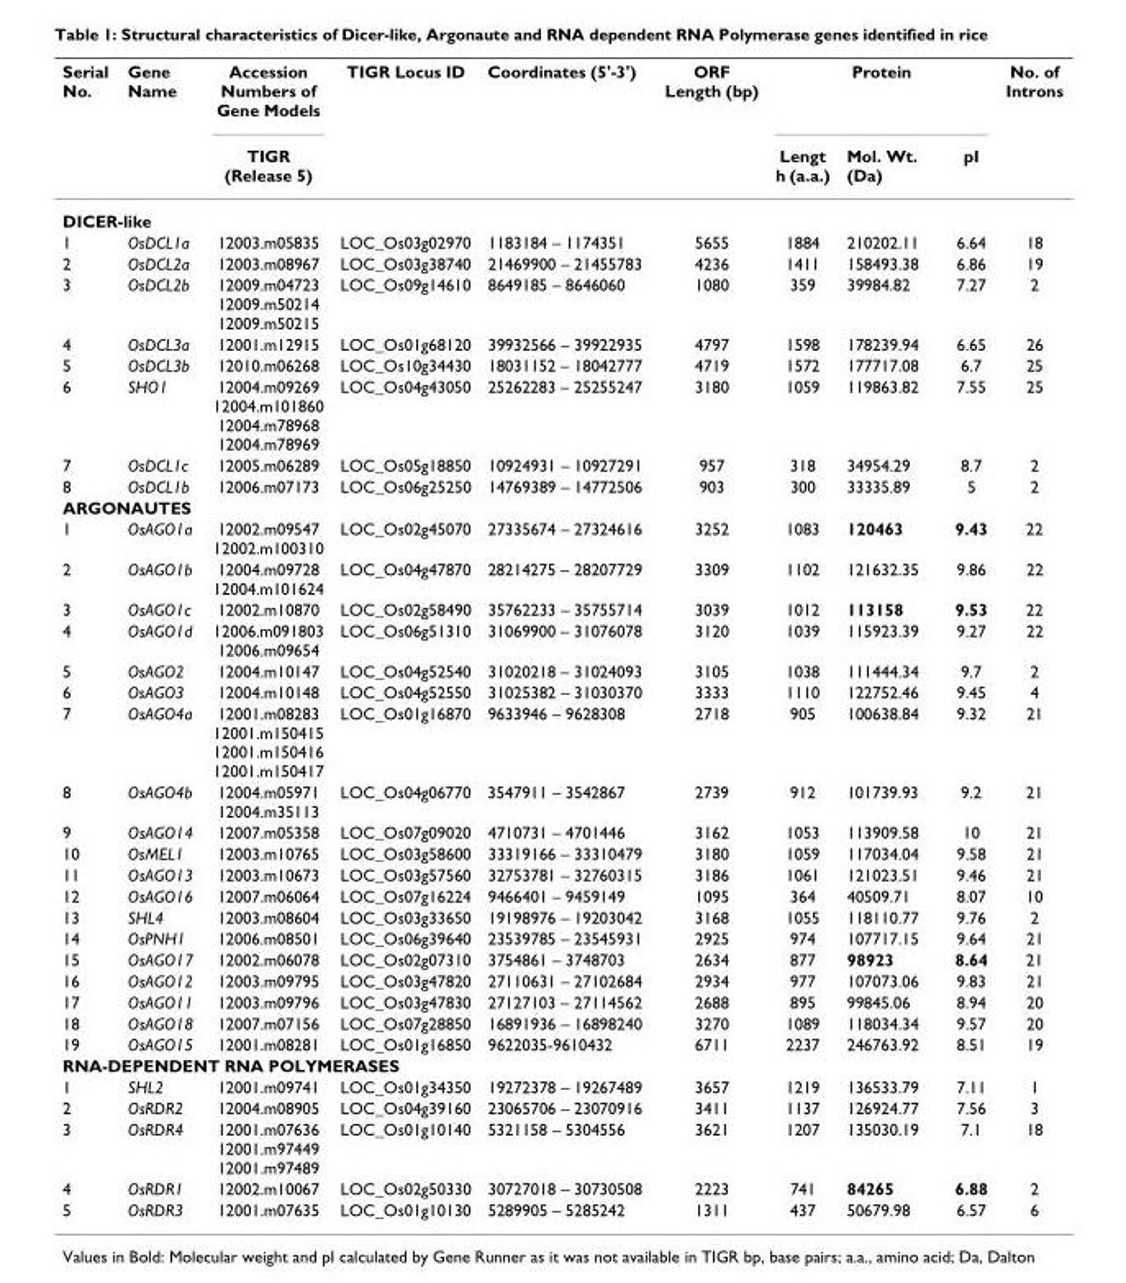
<table><thead><tr><td rowspan="2">Serial No.</td><td rowspan="2">Gene Name</td><td rowspan="2">Accession Numbers of Gene Models TIGR (Release 5)</td><td rowspan="2">TIGR Locus ID</td><td rowspan="2">Coordinates (5&#x27;-3&#x27;)</td><td rowspan="2">ORF Length (bp)</td><td colspan="3">Protein</td><td rowspan="2">No. of Introns</td></tr><tr><td>Lengt h (a.a.)</td><td>Mol. Wt. (Da)</td><td>pI</td></tr></thead><tbody><tr><td colspan="10">DICER-like</td></tr><tr><td>1</td><td>OsDCL1a</td><td>12003.m05835</td><td>LOC_Os03g02970</td><td>1183184 – 1174351</td><td>5655</td><td>1884</td><td>210202.11</td><td>6.64</td><td>18</td></tr><tr><td>2</td><td>OsDCL2a</td><td>12003.m08967</td><td>LOC_Os03g38740</td><td>21469900 – 21455783</td><td>4236</td><td>1411</td><td>158493.38</td><td>6.86</td><td>19</td></tr><tr><td>3</td><td>OsDCL2b</td><td>12009.m04723 12009.m50214 12009.m50215</td><td>LOC_Os09g14610</td><td>8649185 – 8646060</td><td>1080</td><td>359</td><td>39984.82</td><td>7.27</td><td>2</td></tr><tr><td>4</td><td>OsDCL3a</td><td>12001.m12915</td><td>LOC_Os01g68120</td><td>39932566 – 39922935</td><td>4797</td><td>1598</td><td>178239.94</td><td>6.65</td><td>26</td></tr><tr><td>5</td><td>OsDCL3b</td><td>12010.m06268</td><td>LOC_Os10g34430</td><td>18031152 – 18042777</td><td>4719</td><td>1572</td><td>177717.08</td><td>6.7</td><td>25</td></tr><tr><td>6</td><td>SHO1</td><td>12004.m09269 12004.m101860 12004.m78968 12004.m78969</td><td>LOC_Os04g43050</td><td>25262283 – 25255247</td><td>3180</td><td>1059</td><td>119863.82</td><td>7.55</td><td>25</td></tr><tr><td>7</td><td>OsDCL1c</td><td>12005.m06289</td><td>LOC_Os05g18850</td><td>10924931 – 10927291</td><td>957</td><td>318</td><td>34954.29</td><td>8.7</td><td>2</td></tr><tr><td>8</td><td>OsDCL1b</td><td>12006.m07173</td><td>LOC_Os06g25250</td><td>14769389 – 14772506</td><td>903</td><td>300</td><td>33335.89</td><td>5</td><td>2</td></tr><tr><td colspan="10">ARGONAUTES</td></tr><tr><td>1</td><td>OsAGO1a</td><td>12002.m09547 12002.m100310</td><td>LOC_Os02g45070</td><td>27335674 – 27324616</td><td>3252</td><td>1083</td><td>120463</td><td>9.43</td><td>22</td></tr><tr><td>2</td><td>OsAGO1b</td><td>12004.m09728 12004.m101624</td><td>LOC_Os04g47870</td><td>28214275 – 28207729</td><td>3309</td><td>1102</td><td>121632.35</td><td>9.86</td><td>22</td></tr><tr><td>3</td><td>OsAGO1c</td><td>12002.m10870</td><td>LOC_Os02g58490</td><td>35762233 – 35755714</td><td>3039</td><td>1012</td><td>113158</td><td>9.53</td><td>22</td></tr><tr><td>4</td><td>OsAGO1d</td><td>12006.m091803 12006.m09654</td><td>LOC_Os06g51310</td><td>31069900 – 31076078</td><td>3120</td><td>1039</td><td>115923.39</td><td>9.27</td><td>22</td></tr><tr><td>5</td><td>OsAGO2</td><td>12004.m10147</td><td>LOC_Os04g52540</td><td>31020218 – 31024093</td><td>3105</td><td>1038</td><td>111444.34</td><td>9.7</td><td>2</td></tr><tr><td>6</td><td>OsAGO3</td><td>12004.m10148</td><td>LOC_Os04g52550</td><td>31025382 – 31030370</td><td>3333</td><td>1110</td><td>122752.46</td><td>9.45</td><td>4</td></tr><tr><td>7</td><td>OsAGO4a</td><td>12001.m08283 12001.m150415 12001.m150416 12001.m150417</td><td>LOC_Os01g16870</td><td>9633946 – 9628308</td><td>2718</td><td>905</td><td>100638.84</td><td>9.32</td><td>21</td></tr><tr><td>8</td><td>OsAGO4b</td><td>12004.m05971 12004.m35113</td><td>LOC_Os04g06770</td><td>3547911 – 3542867</td><td>2739</td><td>912</td><td>101739.93</td><td>9.2</td><td>21</td></tr><tr><td>9</td><td>OsAGO14</td><td>12007.m05358</td><td>LOC_Os07g09020</td><td>4710731 – 4701446</td><td>3162</td><td>1053</td><td>113909.58</td><td>10</td><td>21</td></tr><tr><td>10</td><td>OsMEL1</td><td>12003.m10765</td><td>LOC_Os03g58600</td><td>33319166 – 33310479</td><td>3180</td><td>1059</td><td>117034.04</td><td>9.58</td><td>21</td></tr><tr><td>11</td><td>OsAGO13</td><td>12003.m10673</td><td>LOC_Os03g57560</td><td>32753781 – 32760315</td><td>3186</td><td>1061</td><td>121023.51</td><td>9.46</td><td>21</td></tr><tr><td>12</td><td>OsAGO16</td><td>12007.m06064</td><td>LOC_Os07g16224</td><td>9466401 – 9459149</td><td>1095</td><td>364</td><td>40509.71</td><td>8.07</td><td>10</td></tr><tr><td>13</td><td>SHL4</td><td>12003.m08604</td><td>LOC_Os03g33650</td><td>19198976 – 19203042</td><td>3168</td><td>1055</td><td>118110.77</td><td>9.76</td><td>2</td></tr><tr><td>14</td><td>OsPNH1</td><td>12006.m08501</td><td>LOC_Os06g39640</td><td>23539785 – 23545931</td><td>2925</td><td>974</td><td>107717.15</td><td>9.64</td><td>21</td></tr><tr><td>15</td><td>OsAGO17</td><td>12002.m06078</td><td>LOC_Os02g07310</td><td>3754861 – 3748703</td><td>2634</td><td>877</td><td>98923</td><td>8.64</td><td>21</td></tr><tr><td>16</td><td>OsAGO12</td><td>12003.m09795</td><td>LOC_Os03g47820</td><td>27110631 – 27102684</td><td>2934</td><td>977</td><td>107073.06</td><td>9.83</td><td>21</td></tr><tr><td>17</td><td>OsAGO11</td><td>12003.m09796</td><td>LOC_Os03g47830</td><td>27127103 – 27114562</td><td>2688</td><td>895</td><td>99845.06</td><td>8.94</td><td>20</td></tr><tr><td>18</td><td>OsAGO18</td><td>12007.m07156</td><td>LOC_Os07g28850</td><td>16891936 – 16898240</td><td>3270</td><td>1089</td><td>118034.34</td><td>9.57</td><td>20</td></tr><tr><td>19</td><td>OsAGO15</td><td>12001.m08281</td><td>LOC_Os01g16850</td><td>9622035-9610432</td><td>6711</td><td>2237</td><td>246763.92</td><td>8.51</td><td>19</td></tr><tr><td colspan="10">RNA-DEPENDENT RNA POLYMERASES</td></tr><tr><td>1</td><td>SHL2</td><td>12001.m09741</td><td>LOC_Os01g34350</td><td>19272378 – 19267489</td><td>3657</td><td>1219</td><td>136533.79</td><td>7.11</td><td>1</td></tr><tr><td>2</td><td>OsRDR2</td><td>12004.m08905</td><td>LOC_Os04g39160</td><td>23065706 – 23070916</td><td>3411</td><td>1137</td><td>126924.77</td><td>7.56</td><td>3</td></tr><tr><td>3</td><td>OsRDR4</td><td>12001.m07636 12001.m97449 12001.m97489</td><td>LOC_Os01g10140</td><td>5321158 – 5304556</td><td>3621</td><td>1207</td><td>135030.19</td><td>7.1</td><td>18</td></tr><tr><td>4</td><td>OsRDR1</td><td>12002.m10067</td><td>LOC_Os02g50330</td><td>30727018 – 30730508</td><td>2223</td><td>741</td><td>84265</td><td>6.88</td><td>2</td></tr><tr><td>5</td><td>OsRDR3</td><td>12001.m07635</td><td>LOC_Os01g10130</td><td>5289905 – 5285242</td><td>1311</td><td>437</td><td>50679.98</td><td>6.57</td><td>6</td></tr></tbody></table>